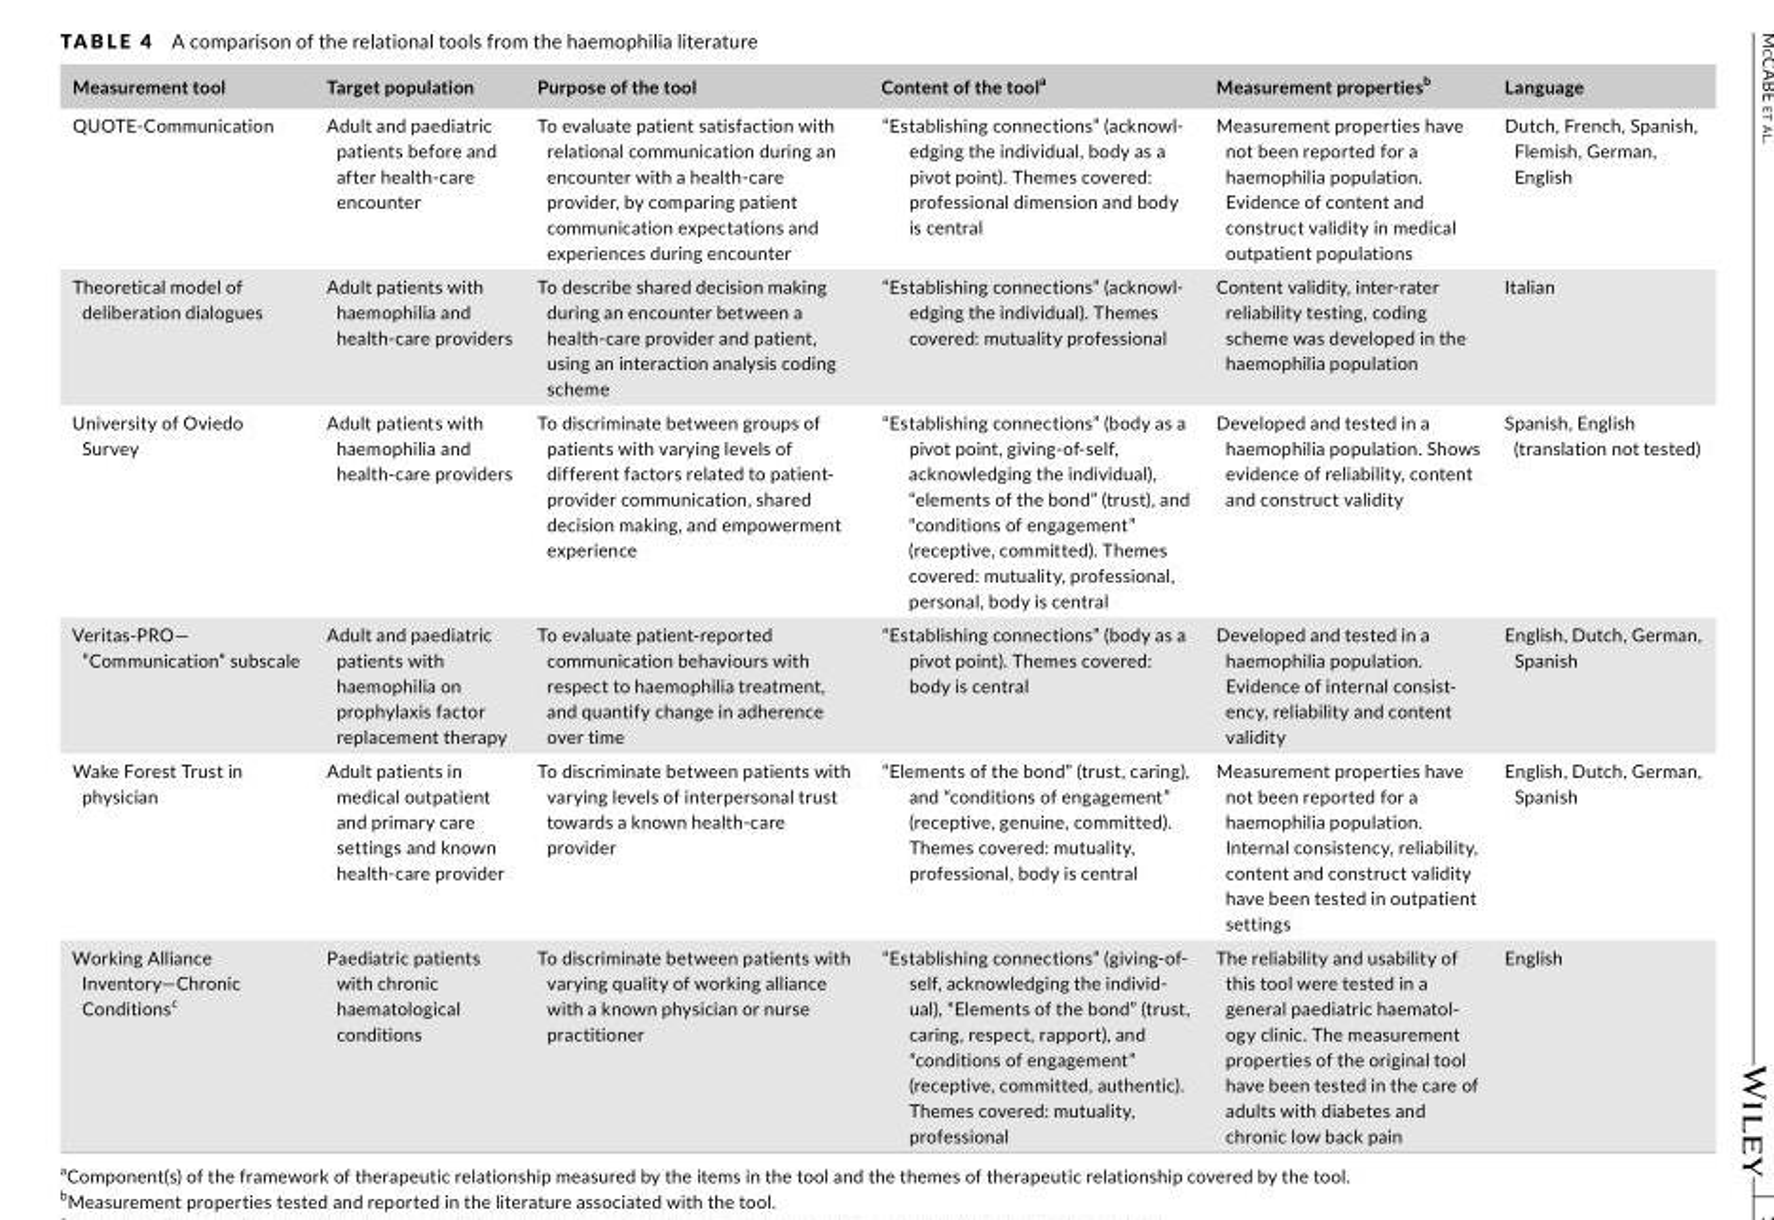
<table><thead><tr><td>Measurement tool</td><td>Target population</td><td>Purpose of the tool</td><td>Content of the tool<sup>a</sup></td><td>Measurement properties<sup>b</sup></td><td>Language</td></tr></thead><tbody><tr><td>QUOTE- Communication</td><td>Adult and paediatric patients before and after health- care encounter</td><td>To evaluate patient satisfaction with relational communication during an encounter with a health- care provider, by comparing patient communication expectations and experiences during encounter</td><td>“Establishing connections” (acknowl- edging the individual, body as a pivot point). Themes covered: professional dimension and body is central</td><td>Measurement properties have not been reported for a haemophilia population. Evidence of content and construct validity in medical outpatient populations</td><td>Dutch, French, Spanish, Flemish, German, English</td></tr><tr><td>Theoretical model of deliberation dialogues</td><td>Adult patients with haemophilia and health- care providers</td><td>To describe shared decision making during an encounter between a health- care provider and patient, using an interaction analysis coding scheme</td><td>“Establishing connections” (acknowl- edging the individual). Themes covered: mutuality professional</td><td>Content validity, inter- rater reliability testing, coding scheme was developed in the haemophilia population</td><td>Italian</td></tr><tr><td>University of Oviedo Survey</td><td>Adult patients with haemophilia and health- care providers</td><td>To discriminate between groups of patients with varying levels of different factors related to patient- provider communication, shared decision making, and empowerment experience</td><td>“Establishing connections” (body as a pivot point, giving- of- self, acknowledging the individual), “elements of the bond” (trust), and “conditions of engagement” (receptive, committed). Themes covered: mutuality, professional, personal, body is central</td><td>Developed and tested in a haemophilia population. Shows evidence of reliability, content and construct validity</td><td>Spanish, English (translation not tested)</td></tr><tr><td>Veritas- PRO— ”Communication” subscale</td><td>Adult and paediatric patients with haemophilia on prophylaxis factor replacement therapy</td><td>To evaluate patient- reported communication behaviours with respect to haemophilia treatment, and quantify change in adherence over time</td><td>“Establishing connections” (body as a pivot point). Themes covered: body is central</td><td>Developed and tested in a haemophilia population. Evidence of internal consist- ency, reliability and content validity</td><td>English, Dutch, German, Spanish</td></tr><tr><td>Wake Forest Trust in physician</td><td>Adult patients in medical outpatient and primary care settings and known health- care provider</td><td>To discriminate between patients with varying levels of interpersonal trust towards a known health- care provider</td><td>“Elements of the bond” (trust, caring), and “conditions of engagement” (receptive, genuine, committed). Themes covered: mutuality, professional, body is central</td><td>Measurement properties have not been reported for a haemophilia population. Internal consistency, reliability, content and construct validity have been tested in outpatient settings</td><td>English, Dutch, German, Spanish</td></tr><tr><td>Working Alliance Inventory—Chronic Conditions<sup>c</sup></td><td>Paediatric patients with chronic haematological conditions</td><td>To discriminate between patients with varying quality of working alliance with a known physician or nurse practitioner</td><td>“Establishing connections” (giving- of- self, acknowledging the individ- ual), “Elements of the bond” (trust, caring, respect, rapport), and “conditions of engagement” (receptive, committed, authentic). Themes covered: mutuality, professional</td><td>The reliability and usability of this tool were tested in a general paediatric haematol- ogy clinic. The measurement properties of the original tool have been tested in the care of adults with diabetes and chronic low back pain</td><td>English</td></tr></tbody></table>